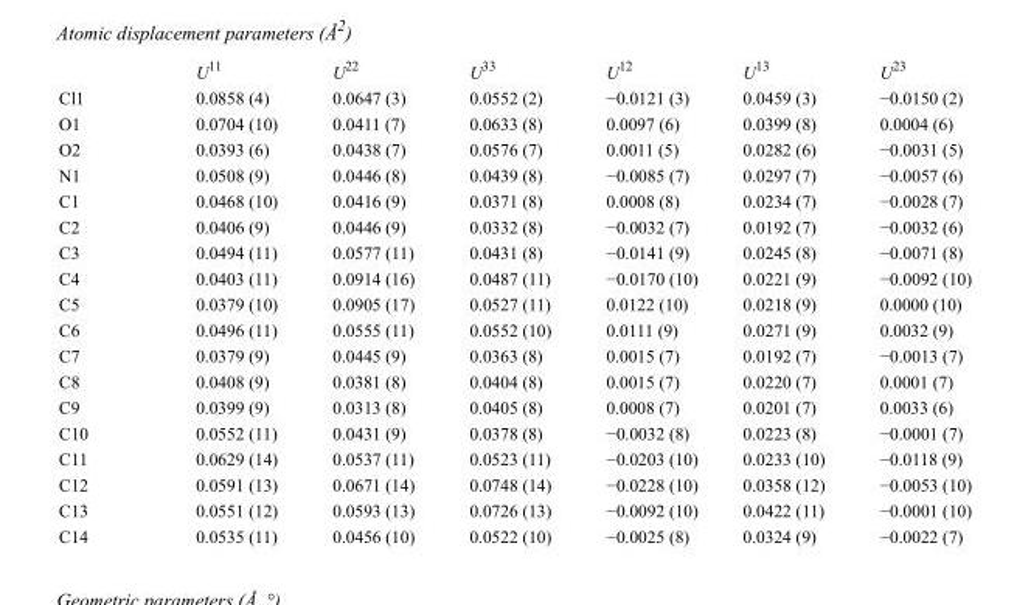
<table><thead><tr><td></td><td>U<sup>11</sup></td><td>U<sup>22</sup></td><td>U<sup>33</sup></td><td>U<sup>12</sup></td><td>U<sup>13</sup></td><td>U<sup>23</sup></td></tr></thead><tbody><tr><td>Cl1</td><td>0.0858 (4)</td><td>0.0647 (3)</td><td>0.0552 (2)</td><td>−0.0121 (3)</td><td>0.0459 (3)</td><td>−0.0150 (2)</td></tr><tr><td>O1</td><td>0.0704 (10)</td><td>0.0411 (7)</td><td>0.0633 (8)</td><td>0.0097 (6)</td><td>0.0399 (8)</td><td>0.0004 (6)</td></tr><tr><td>O2</td><td>0.0393 (6)</td><td>0.0438 (7)</td><td>0.0576 (7)</td><td>0.0011 (5)</td><td>0.0282 (6)</td><td>−0.0031 (5)</td></tr><tr><td>N1</td><td>0.0508 (9)</td><td>0.0446 (8)</td><td>0.0439 (8)</td><td>−0.0085 (7)</td><td>0.0297 (7)</td><td>−0.0057 (6)</td></tr><tr><td>C1</td><td>0.0468 (10)</td><td>0.0416 (9)</td><td>0.0371 (8)</td><td>0.0008 (8)</td><td>0.0234 (7)</td><td>−0.0028 (7)</td></tr><tr><td>C2</td><td>0.0406 (9)</td><td>0.0446 (9)</td><td>0.0332 (8)</td><td>−0.0032 (7)</td><td>0.0192 (7)</td><td>−0.0032 (6)</td></tr><tr><td>C3</td><td>0.0494 (11)</td><td>0.0577 (11)</td><td>0.0431 (8)</td><td>−0.0141 (9)</td><td>0.0245 (8)</td><td>−0.0071 (8)</td></tr><tr><td>C4</td><td>0.0403 (11)</td><td>0.0914 (16)</td><td>0.0487 (11)</td><td>−0.0170 (10)</td><td>0.0221 (9)</td><td>−0.0092 (10)</td></tr><tr><td>C5</td><td>0.0379 (10)</td><td>0.0905 (17)</td><td>0.0527 (11)</td><td>0.0122 (10)</td><td>0.0218 (9)</td><td>0.0000 (10)</td></tr><tr><td>C6</td><td>0.0496 (11)</td><td>0.0555 (11)</td><td>0.0552 (10)</td><td>0.0111 (9)</td><td>0.0271 (9)</td><td>0.0032 (9)</td></tr><tr><td>C7</td><td>0.0379 (9)</td><td>0.0445 (9)</td><td>0.0363 (8)</td><td>0.0015 (7)</td><td>0.0192 (7)</td><td>−0.0013 (7)</td></tr><tr><td>C8</td><td>0.0408 (9)</td><td>0.0381 (8)</td><td>0.0404 (8)</td><td>0.0015 (7)</td><td>0.0220 (7)</td><td>0.0001 (7)</td></tr><tr><td>C9</td><td>0.0399 (9)</td><td>0.0313 (8)</td><td>0.0405 (8)</td><td>0.0008 (7)</td><td>0.0201 (7)</td><td>0.0033 (6)</td></tr><tr><td>C10</td><td>0.0552 (11)</td><td>0.0431 (9)</td><td>0.0378 (8)</td><td>−0.0032 (8)</td><td>0.0223 (8)</td><td>−0.0001 (7)</td></tr><tr><td>C11</td><td>0.0629 (14)</td><td>0.0537 (11)</td><td>0.0523 (11)</td><td>−0.0203 (10)</td><td>0.0233 (10)</td><td>−0.0118 (9)</td></tr><tr><td>C12</td><td>0.0591 (13)</td><td>0.0671 (14)</td><td>0.0748 (14)</td><td>−0.0228 (10)</td><td>0.0358 (12)</td><td>−0.0053 (10)</td></tr><tr><td>C13</td><td>0.0551 (12)</td><td>0.0593 (13)</td><td>0.0726 (13)</td><td>−0.0092 (10)</td><td>0.0422 (11)</td><td>−0.0001 (10)</td></tr><tr><td>C14</td><td>0.0535 (11)</td><td>0.0456 (10)</td><td>0.0522 (10)</td><td>−0.0025 (8)</td><td>0.0324 (9)</td><td>−0.0022 (7)</td></tr></tbody></table>